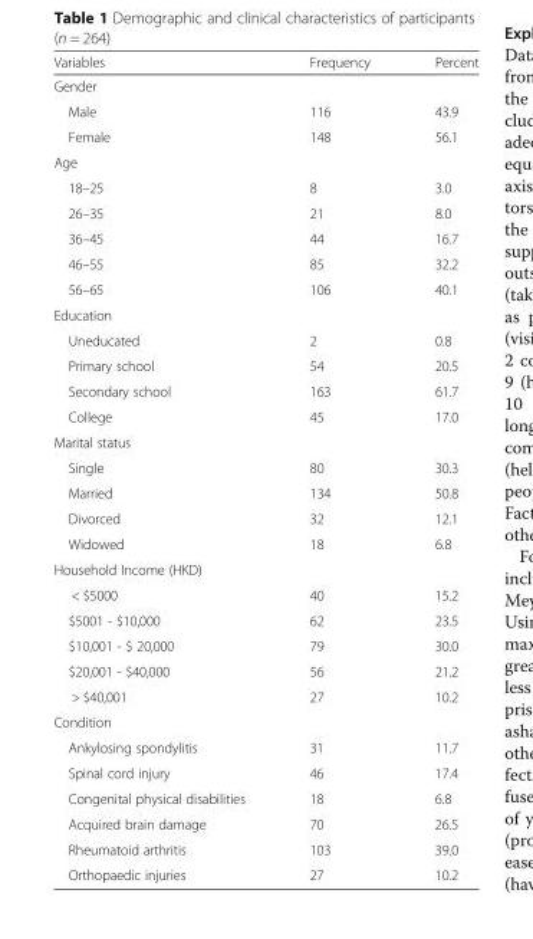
<table><thead><tr><td>Variables</td><td>Frequency</td><td>Percent</td></tr></thead><tbody><tr><td colspan="3">Gender</td></tr><tr><td>Male</td><td>116</td><td>43.9</td></tr><tr><td>Female</td><td>148</td><td>56.1</td></tr><tr><td colspan="3">Age</td></tr><tr><td>18–25</td><td>8</td><td>3.0</td></tr><tr><td>26–35</td><td>21</td><td>8.0</td></tr><tr><td>36–45</td><td>44</td><td>16.7</td></tr><tr><td>46–55</td><td>85</td><td>32.2</td></tr><tr><td>56–65</td><td>106</td><td>40.1</td></tr><tr><td colspan="3">Education</td></tr><tr><td>Uneducated</td><td>2</td><td>0.8</td></tr><tr><td>Primary school</td><td>54</td><td>20.5</td></tr><tr><td>Secondary school</td><td>163</td><td>61.7</td></tr><tr><td>College</td><td>45</td><td>17.0</td></tr><tr><td colspan="3">Marital status</td></tr><tr><td>Single</td><td>80</td><td>30.3</td></tr><tr><td>Married</td><td>134</td><td>50.8</td></tr><tr><td>Divorced</td><td>32</td><td>12.1</td></tr><tr><td>Widowed</td><td>18</td><td>6.8</td></tr><tr><td colspan="3">Household Income (HKD)</td></tr><tr><td>&lt; $5000</td><td>40</td><td>15.2</td></tr><tr><td>$5001 - $10,000</td><td>62</td><td>23.5</td></tr><tr><td>$10,001 - $ 20,000</td><td>79</td><td>30.0</td></tr><tr><td>$20,001 - $40,000</td><td>56</td><td>21.2</td></tr><tr><td>&gt; $40,001</td><td>27</td><td>10.2</td></tr><tr><td colspan="3">Condition</td></tr><tr><td>Ankylosing spondylitis</td><td>31</td><td>11.7</td></tr><tr><td>Spinal cord injury</td><td>46</td><td>17.4</td></tr><tr><td>Congenital physical disabilities</td><td>18</td><td>6.8</td></tr><tr><td>Acquired brain damage</td><td>70</td><td>26.5</td></tr><tr><td>Rheumatoid arthritis</td><td>103</td><td>39.0</td></tr><tr><td>Orthopaedic injuries</td><td>27</td><td>10.2</td></tr></tbody></table>